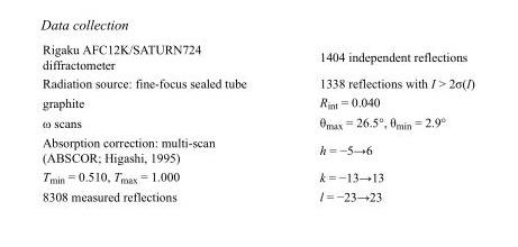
<table><tbody><tr><td>Rigaku AFC12K/SATURN724 diffractometer</td><td>1404 independent reflections</td></tr><tr><td>Radiation source: fine-focus sealed tube</td><td>1338 reflections with I &gt; 2σ(I)</td></tr><tr><td>graphite</td><td>R<sub>int</sub> = 0.040</td></tr><tr><td>ω scans</td><td>θ<sub>max</sub> = 26.5°, θ<sub>min</sub> = 2.9°</td></tr><tr><td>Absorption correction: multi-scan (ABSCOR; Higashi, 1995)</td><td>h = −5→6</td></tr><tr><td>T<sub>min</sub> = 0.510, T<sub>max</sub> = 1.000</td><td>k = −13→13</td></tr><tr><td>8308 measured reflections</td><td>l = −23→23</td></tr></tbody></table>